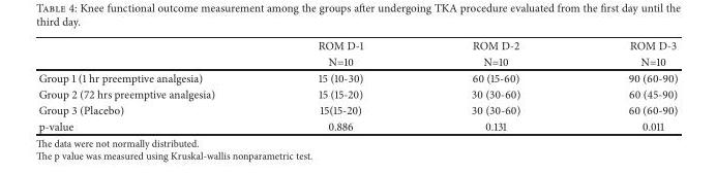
<table><thead><tr><td rowspan="2"></td><td rowspan="2">ROM D-1 N=10</td><td rowspan="2">ROM D-2 N=10</td><td rowspan="2">ROM D-3 N=10</td></tr><tr></tr></thead><tbody><tr><td>Group 1 (1 hr preemptive analgesia)</td><td>15 (10-30)</td><td>60 (15-60)</td><td>90 (60-90)</td></tr><tr><td>Group 2 (72 hrs preemptive analgesia)</td><td>15 (15-20)</td><td>30 (30-60)</td><td>60 (45-90)</td></tr><tr><td>Group 3 (Placebo)</td><td>15(15-20)</td><td>30 (30-60)</td><td>60 (60-90)</td></tr><tr><td>p-value</td><td>0.886</td><td>0.131</td><td>0.011</td></tr></tbody></table>